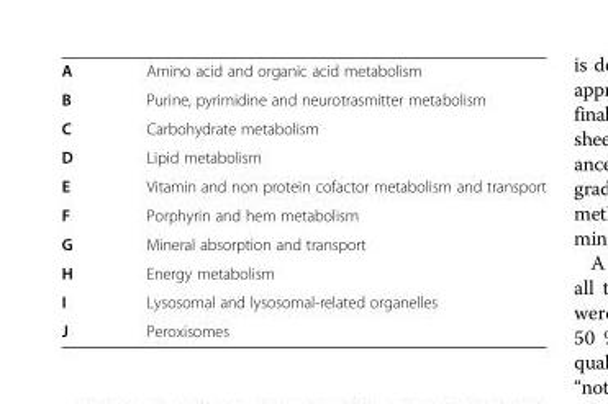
<table><tbody><tr><td>A</td><td>Amino acid and organic acid metabolism</td></tr><tr><td>B</td><td>Purine, pyrimidine and neurotrasmitter metabolism</td></tr><tr><td>C</td><td>Carbohydrate metabolism</td></tr><tr><td>D</td><td>Lipid metabolism</td></tr><tr><td>E</td><td>Vitamin and non protein cofactor metabolism and transport</td></tr><tr><td>F</td><td>Porphyrin and hem metabolism</td></tr><tr><td>G</td><td>Mineral absorption and transport</td></tr><tr><td>H</td><td>Energy metabolism</td></tr><tr><td>I</td><td>Lysosomal and lysosomal-related organelles</td></tr><tr><td>J</td><td>Peroxisomes</td></tr></tbody></table>